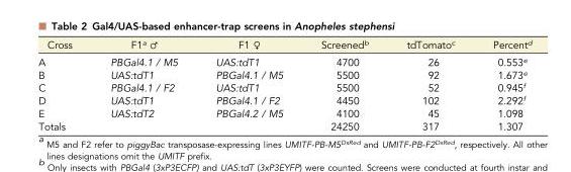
<table><thead><tr><td>Cross</td><td>F1<sup>a</sup> ♂</td><td>F1 ♀</td><td>Screened<sup>b</sup></td><td>tdTomato<sup>c</sup></td><td>Percent<sup>d</sup></td></tr></thead><tbody><tr><td>A</td><td>PBGal4.1 / M5</td><td>UAS:tdT1</td><td>4700</td><td>26</td><td>0.553<sup>e</sup></td></tr><tr><td>B</td><td>UAS:tdT1</td><td>PBGal4.1 / M5</td><td>5500</td><td>92</td><td>1.673<sup>e</sup></td></tr><tr><td>C</td><td>PBGal4.1 / F2</td><td>UAS:tdT1</td><td>5500</td><td>52</td><td>0.945<sup>f</sup></td></tr><tr><td>D</td><td>UAS:tdT1</td><td>PBGal4.1 / F2</td><td>4450</td><td>102</td><td>2.292<sup>f</sup></td></tr><tr><td>E</td><td>UAS:tdT2</td><td>PBGal4.2 / M5</td><td>4100</td><td>45</td><td>1.098</td></tr><tr><td>Totals</td><td></td><td></td><td>24250</td><td>317</td><td>1.307</td></tr></tbody></table>